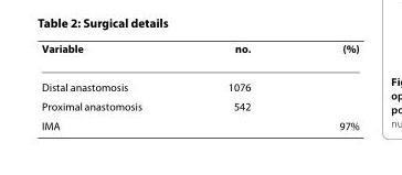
<table><thead><tr><td>Variable</td><td>no.</td><td>(%)</td></tr></thead><tbody><tr><td>Distal anastomosis</td><td>1076</td><td></td></tr><tr><td>Proximal anastomosis</td><td>542</td><td></td></tr><tr><td>IMA</td><td></td><td>97%</td></tr></tbody></table>